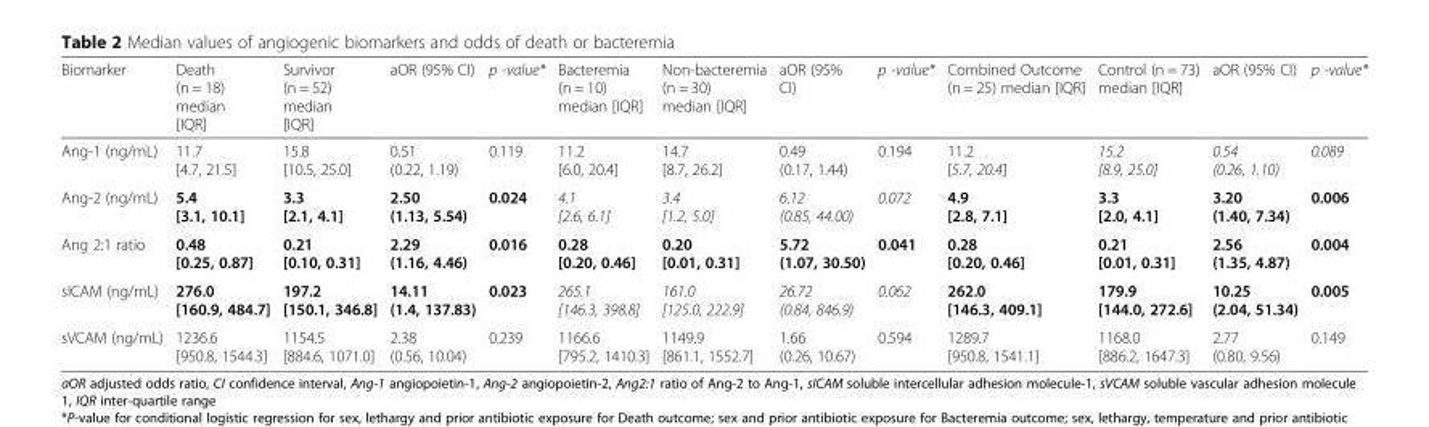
<table><thead><tr><td>Biomarker</td><td>Death (n = 18) median [IQR]</td><td>Survivor (n = 52) median [IQR]</td><td>aOR (95% CI)</td><td>p -value*</td><td>Bacteremia (n = 10) median [IQR]</td><td>Non-bacteremia (n = 30) median [IQR]</td><td>aOR (95% CI)</td><td>p -value*</td><td>Combined Outcome (n = 25) median [IQR]</td><td>Control (n = 73) median [IQR]</td><td>aOR (95% CI)</td><td>p -value*</td></tr></thead><tbody><tr><td>Ang-1 (ng/mL)</td><td>11.7 [4.7, 21.5]</td><td>15.8 [10.5, 25.0]</td><td>0.51 (0.22, 1.19)</td><td>0.119</td><td>11.2 [6.0, 20.4]</td><td>14.7 [8.7, 26.2]</td><td>0.49 (0.17, 1.44)</td><td>0.194</td><td>11.2 [5.7, 20.4]</td><td>15.2 [8.9, 25.0]</td><td>0.54 (0.26, 1.10)</td><td>0.089</td></tr><tr><td>Ang-2 (ng/mL)</td><td>5.4 [3.1, 10.1]</td><td>3.3 [2.1, 4.1]</td><td>2.50 (1.13, 5.54)</td><td>0.024</td><td>4.1 [2.6, 6.1]</td><td>3.4 [1.2, 5.0]</td><td>6.12 (0.85, 44.00)</td><td>0.072</td><td>4.9 [2.8, 7.1]</td><td>3.3 [2.0, 4.1]</td><td>3.20 (1.40, 7.34)</td><td>0.006</td></tr><tr><td>Ang 2:1 ratio</td><td>0.48 [0.25, 0.87]</td><td>0.21 [0.10, 0.31]</td><td>2.29 (1.16, 4.46)</td><td>0.016</td><td>0.28 [0.20, 0.46]</td><td>0.20 [0.01, 0.31]</td><td>5.72 (1.07, 30.50)</td><td>0.041</td><td>0.28 [0.20, 0.46]</td><td>0.21 [0.01, 0.31]</td><td>2.56 (1.35, 4.87)</td><td>0.004</td></tr><tr><td>sICAM (ng/mL)</td><td>276.0 [160.9, 484.7]</td><td>197.2 [150.1, 346.8]</td><td>14.11 (1.4, 137.83)</td><td>0.023</td><td>265.1 [146.3, 398.8]</td><td>161.0 [125.0, 222.9]</td><td>26.72 (0.84, 846.9)</td><td>0.062</td><td>262.0 [146.3, 409.1]</td><td>179.9 [144.0, 272.6]</td><td>10.25 (2.04, 51.34)</td><td>0.005</td></tr><tr><td>sVCAM (ng/mL)</td><td>1236.6 [950.8, 1544.3]</td><td>1154.5 [884.6, 1071.0]</td><td>2.38 (0.56, 10.04)</td><td>0.239</td><td>1166.6 [795.2, 1410.3]</td><td>1149.9 [861.1, 1552.7]</td><td>1.66 (0.26, 10.67)</td><td>0.594</td><td>1289.7 [950.8, 1541.1]</td><td>1168.0 [886.2, 1647.3]</td><td>2.77 (0.80, 9.56)</td><td>0.149</td></tr></tbody></table>